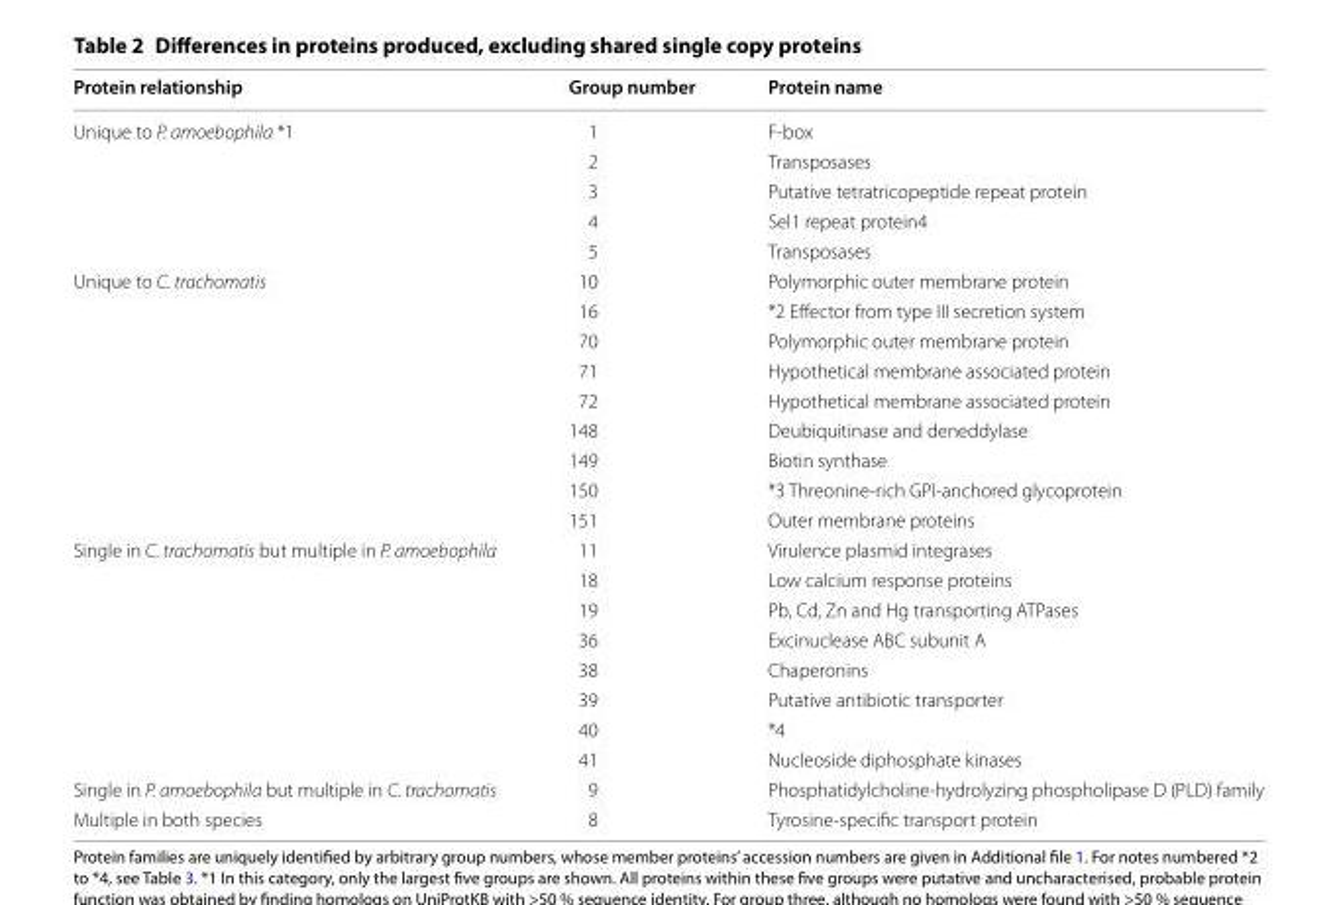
<table><thead><tr><td>Protein relationship</td><td>Group number</td><td>Protein name</td></tr></thead><tbody><tr><td rowspan="5">Unique to P. amoebophila *1</td><td>1</td><td>F-box</td></tr><tr><td>2</td><td>Transposases</td></tr><tr><td>3</td><td>Putative tetratricopeptide repeat protein</td></tr><tr><td>4</td><td>Sel1 repeat protein4</td></tr><tr><td>5</td><td>Transposases</td></tr><tr><td rowspan="9">Unique to C. trachomatis</td><td>10</td><td>Polymorphic outer membrane protein</td></tr><tr><td>16</td><td>*2 Effector from type III secretion system</td></tr><tr><td>70</td><td>Polymorphic outer membrane protein</td></tr><tr><td>71</td><td>Hypothetical membrane associated protein</td></tr><tr><td>72</td><td>Hypothetical membrane associated protein</td></tr><tr><td>148</td><td>Deubiquitinase and deneddylase</td></tr><tr><td>149</td><td>Biotin synthase</td></tr><tr><td>150</td><td>*3 Threonine-rich GPI-anchored glycoprotein</td></tr><tr><td>151</td><td>Outer membrane proteins</td></tr><tr><td rowspan="8">Single in C. trachomatis but multiple in P. amoebophila</td><td>11</td><td>Virulence plasmid integrases</td></tr><tr><td>18</td><td>Low calcium response proteins</td></tr><tr><td>19</td><td>Pb, Cd, Zn and Hg transporting ATPases</td></tr><tr><td>36</td><td>Excinuclease ABC subunit A</td></tr><tr><td>38</td><td>Chaperonins</td></tr><tr><td>39</td><td>Putative antibiotic transporter</td></tr><tr><td>40</td><td>*4</td></tr><tr><td>41</td><td>Nucleoside diphosphate kinases</td></tr><tr><td>Single in P. amoebophila but multiple in C. trachomatis</td><td>9</td><td>Phosphatidylcholine-hydrolyzing phospholipase D (PLD) family</td></tr><tr><td>Multiple in both species</td><td>8</td><td>Tyrosine-specific transport protein</td></tr></tbody></table>